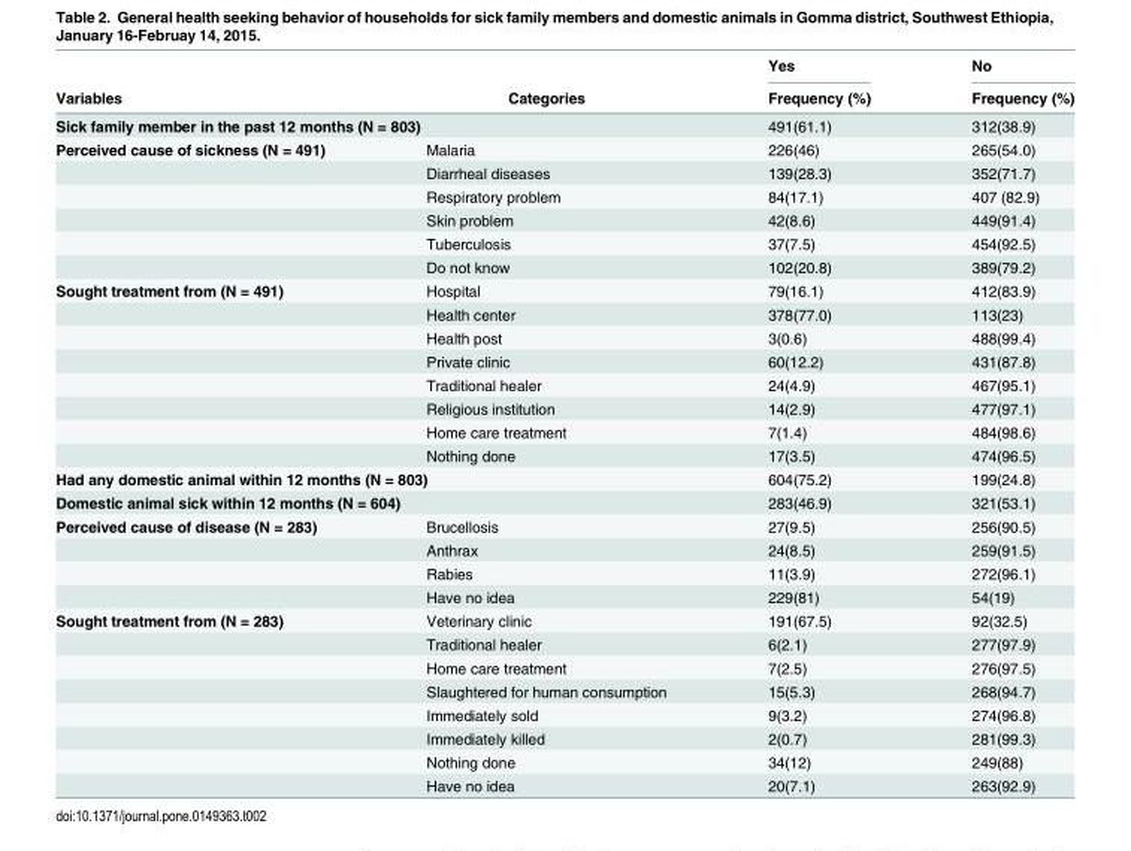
<table><thead><tr><td rowspan="2">Variables</td><td rowspan="2">Categories</td><td rowspan="2">Yes Frequency (%)</td><td rowspan="2">No Frequency (%)</td></tr><tr></tr></thead><tbody><tr><td colspan="2">Sick family member in the past 12 months (N = 803)</td><td>491(61.1)</td><td>312(38.9)</td></tr><tr><td rowspan="6">Perceived cause of sickness (N = 491)</td><td>Malaria</td><td>226(46)</td><td>265(54.0)</td></tr><tr><td>Diarrheal diseases</td><td>139(28.3)</td><td>352(71.7)</td></tr><tr><td>Respiratory problem</td><td>84(17.1)</td><td>407 (82.9)</td></tr><tr><td>Skin problem</td><td>42(8.6)</td><td>449(91.4)</td></tr><tr><td>Tuberculosis</td><td>37(7.5)</td><td>454(92.5)</td></tr><tr><td>Do not know</td><td>102(20.8)</td><td>389(79.2)</td></tr><tr><td rowspan="8">Sought treatment from (N = 491)</td><td>Hospital</td><td>79(16.1)</td><td>412(83.9)</td></tr><tr><td>Health center</td><td>378(77.0)</td><td>113(23)</td></tr><tr><td>Health post</td><td>3(0.6)</td><td>488(99.4)</td></tr><tr><td>Private clinic</td><td>60(12.2)</td><td>431(87.8)</td></tr><tr><td>Traditional healer</td><td>24(4.9)</td><td>467(95.1)</td></tr><tr><td>Religious institution</td><td>14(2.9)</td><td>477(97.1)</td></tr><tr><td>Home care treatment</td><td>7(1.4)</td><td>484(98.6)</td></tr><tr><td>Nothing done</td><td>17(3.5)</td><td>474(96.5)</td></tr><tr><td colspan="2">Had any domestic animal within 12 months (N = 803)</td><td>604(75.2)</td><td>199(24.8)</td></tr><tr><td colspan="2">Domestic animal sick within 12 months (N = 604)</td><td>283(46.9)</td><td>321(53.1)</td></tr><tr><td rowspan="4">Perceived cause of disease (N = 283)</td><td>Brucellosis</td><td>27(9.5)</td><td>256(90.5)</td></tr><tr><td>Anthrax</td><td>24(8.5)</td><td>259(91.5)</td></tr><tr><td>Rabies</td><td>11(3.9)</td><td>272(96.1)</td></tr><tr><td>Have no idea</td><td>229(81)</td><td>54(19)</td></tr><tr><td rowspan="8">Sought treatment from (N = 283)</td><td>Veterinary clinic</td><td>191(67.5)</td><td>92(32.5)</td></tr><tr><td>Traditional healer</td><td>6(2.1)</td><td>277(97.9)</td></tr><tr><td>Home care treatment</td><td>7(2.5)</td><td>276(97.5)</td></tr><tr><td>Slaughtered for human consumption</td><td>15(5.3)</td><td>268(94.7)</td></tr><tr><td>Immediately sold</td><td>9(3.2)</td><td>274(96.8)</td></tr><tr><td>Immediately killed</td><td>2(0.7)</td><td>281(99.3)</td></tr><tr><td>Nothing done</td><td>34(12)</td><td>249(88)</td></tr><tr><td>Have no idea</td><td>20(7.1)</td><td>263(92.9)</td></tr></tbody></table>